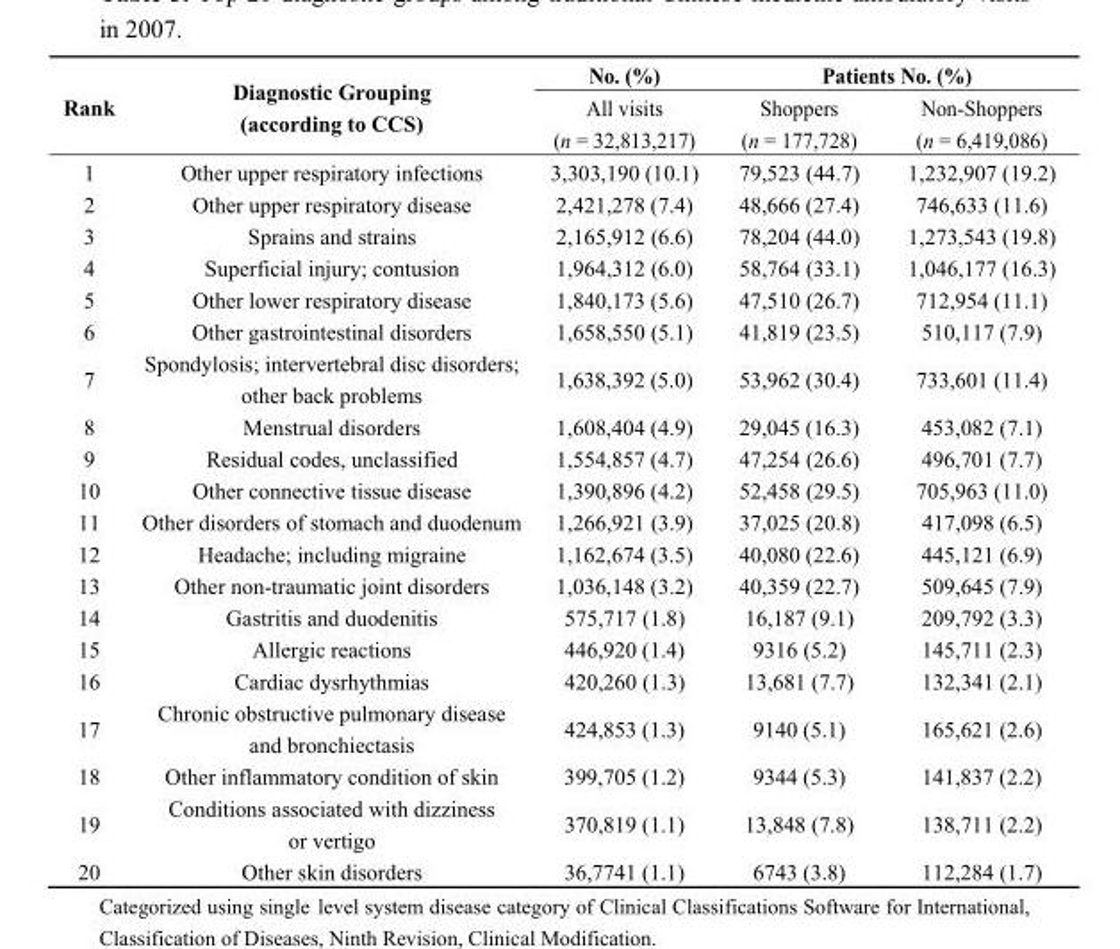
<table><thead><tr><td rowspan="2">Rank</td><td rowspan="2">Diagnostic Grouping (according to CCS)</td><td rowspan="2">No. (%) All visits (n = 32,813,217)</td><td colspan="2">Patients No. (%)</td></tr><tr><td>Shoppers (n = 177,728)</td><td>Non-Shoppers (n = 6,419,086)</td></tr></thead><tbody><tr><td>1</td><td>Other upper respiratory infections</td><td>3,303,190 (10.1)</td><td>79,523 (44.7)</td><td>1,232,907 (19.2)</td></tr><tr><td>2</td><td>Other upper respiratory disease</td><td>2,421,278 (7.4)</td><td>48,666 (27.4)</td><td>746,633 (11.6)</td></tr><tr><td>3</td><td>Sprains and strains</td><td>2,165,912 (6.6)</td><td>78,204 (44.0)</td><td>1,273,543 (19.8)</td></tr><tr><td>4</td><td>Superficial injury; contusion</td><td>1,964,312 (6.0)</td><td>58,764 (33.1)</td><td>1,046,177 (16.3)</td></tr><tr><td>5</td><td>Other lower respiratory disease</td><td>1,840,173 (5.6)</td><td>47,510 (26.7)</td><td>712,954 (11.1)</td></tr><tr><td>6</td><td>Other gastrointestinal disorders</td><td>1,658,550 (5.1)</td><td>41,819 (23.5)</td><td>510,117 (7.9)</td></tr><tr><td>7</td><td>Spondylosis; intervertebral disc disorders; other back problems</td><td>1,638,392 (5.0)</td><td>53,962 (30.4)</td><td>733,601 (11.4)</td></tr><tr><td>8</td><td>Menstrual disorders</td><td>1,608,404 (4.9)</td><td>29,045 (16.3)</td><td>453,082 (7.1)</td></tr><tr><td>9</td><td>Residual codes, unclassified</td><td>1,554,857 (4.7)</td><td>47,254 (26.6)</td><td>496,701 (7.7)</td></tr><tr><td>10</td><td>Other connective tissue disease</td><td>1,390,896 (4.2)</td><td>52,458 (29.5)</td><td>705,963 (11.0)</td></tr><tr><td>11</td><td>Other disorders of stomach and duodenum</td><td>1,266,921 (3.9)</td><td>37,025 (20.8)</td><td>417,098 (6.5)</td></tr><tr><td>12</td><td>Headache; including migraine</td><td>1,162,674 (3.5)</td><td>40,080 (22.6)</td><td>445,121 (6.9)</td></tr><tr><td>13</td><td>Other non-traumatic joint disorders</td><td>1,036,148 (3.2)</td><td>40,359 (22.7)</td><td>509,645 (7.9)</td></tr><tr><td>14</td><td>Gastritis and duodenitis</td><td>575,717 (1.8)</td><td>16,187 (9.1)</td><td>209,792 (3.3)</td></tr><tr><td>15</td><td>Allergic reactions</td><td>446,920 (1.4)</td><td>9316 (5.2)</td><td>145,711 (2.3)</td></tr><tr><td>16</td><td>Cardiac dysrhythmias</td><td>420,260 (1.3)</td><td>13,681 (7.7)</td><td>132,341 (2.1)</td></tr><tr><td>17</td><td>Chronic obstructive pulmonary disease and bronchiectasis</td><td>424,853 (1.3)</td><td>9140 (5.1)</td><td>165,621 (2.6)</td></tr><tr><td>18</td><td>Other inflammatory condition of skin</td><td>399,705 (1.2)</td><td>9344 (5.3)</td><td>141,837 (2.2)</td></tr><tr><td>19</td><td>Conditions associated with dizziness or vertigo</td><td>370,819 (1.1)</td><td>13,848 (7.8)</td><td>138,711 (2.2)</td></tr><tr><td>20</td><td>Other skin disorders</td><td>36,7741 (1.1)</td><td>6743 (3.8)</td><td>112,284 (1.7)</td></tr></tbody></table>